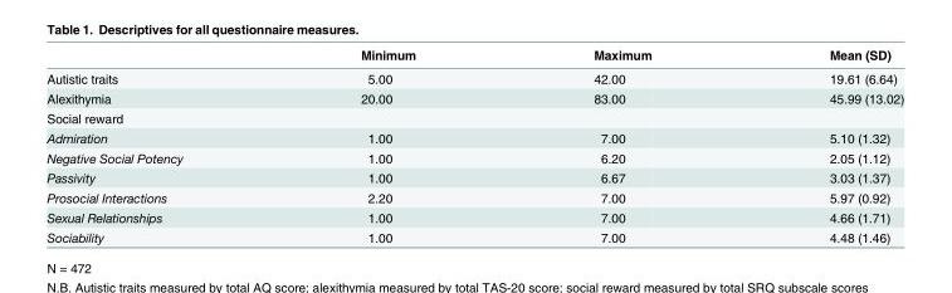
<table><thead><tr><td></td><td>Minimum</td><td>Maximum</td><td>Mean (SD)</td></tr></thead><tbody><tr><td>Autistic traits</td><td>5.00</td><td>42.00</td><td>19.61 (6.64)</td></tr><tr><td>Alexithymia</td><td>20.00</td><td>83.00</td><td>45.99 (13.02)</td></tr><tr><td colspan="4">Social reward</td></tr><tr><td>Admiration</td><td>1.00</td><td>7.00</td><td>5.10 (1.32)</td></tr><tr><td>Negative Social Potency</td><td>1.00</td><td>6.20</td><td>2.05 (1.12)</td></tr><tr><td>Passivity</td><td>1.00</td><td>6.67</td><td>3.03 (1.37)</td></tr><tr><td>Prosocial Interactions</td><td>2.20</td><td>7.00</td><td>5.97 (0.92)</td></tr><tr><td>Sexual Relationships</td><td>1.00</td><td>7.00</td><td>4.66 (1.71)</td></tr><tr><td>Sociability</td><td>1.00</td><td>7.00</td><td>4.48 (1.46)</td></tr></tbody></table>